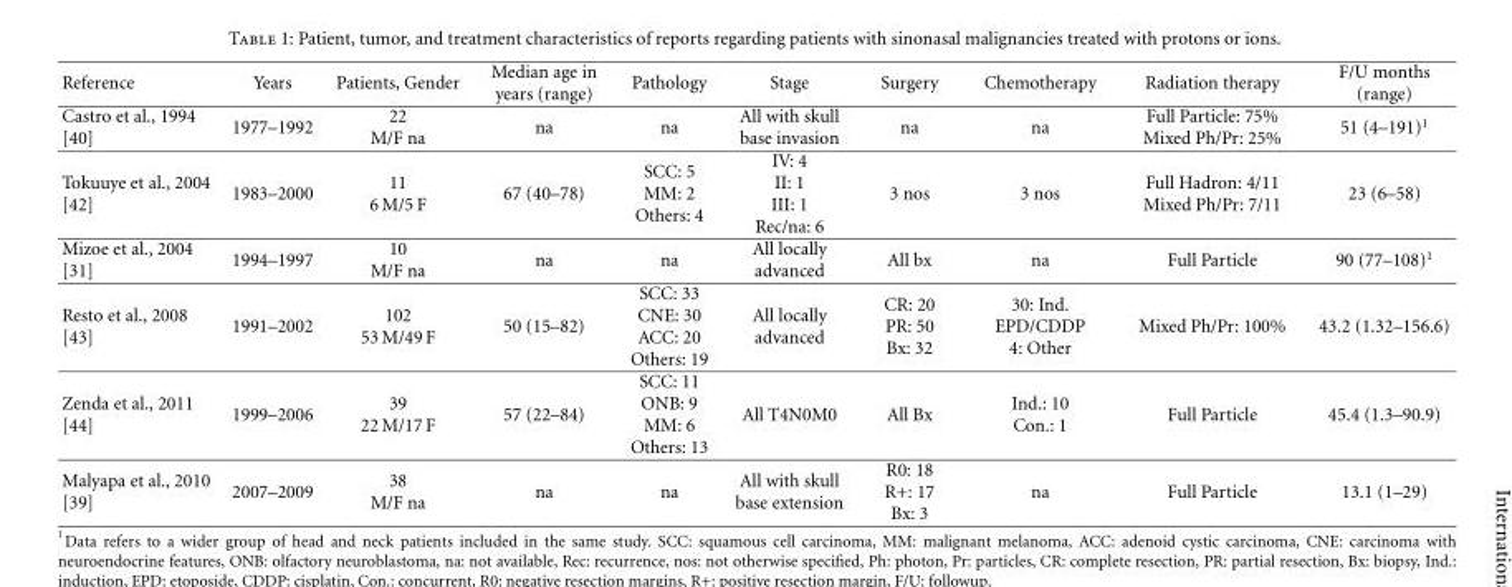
<table><thead><tr><td>Reference</td><td>Years</td><td>Patients, Gender</td><td>Median age in years (range)</td><td>Pathology</td><td>Stage</td><td>Surgery</td><td>Chemotherapy</td><td>Radiation therapy</td><td>F/U months (range)</td></tr></thead><tbody><tr><td>Castro et al., 1994 [40]</td><td>1977–1992</td><td>22 M/F na</td><td>na</td><td>na</td><td>All with skull base invasion</td><td>na</td><td>na</td><td>Full Particle: 75% Mixed Ph/Pr: 25%</td><td>51 (4–191)<sup>1</sup></td></tr><tr><td>Tokuuye et al., 2004 [42]</td><td>1983–2000</td><td>11 6 M/5 F</td><td>67 (40–78)</td><td>SCC: 5 MM: 2 Others: 4</td><td>IV: 4 II: 1 III: 1 Rec/na: 6</td><td>3 nos</td><td>3 nos</td><td>Full Hadron: 4/11 Mixed Ph/Pr: 7/11</td><td>23 (6–58)</td></tr><tr><td>Mizoe et al., 2004 [31]</td><td>1994–1997</td><td>10 M/F na</td><td>na</td><td>na</td><td>All locally advanced</td><td>All bx</td><td>na</td><td>Full Particle</td><td>90 (77–108)<sup>1</sup></td></tr><tr><td>Resto et al., 2008 [43]</td><td>1991–2002</td><td>102 53 M/49 F</td><td>50 (15–82)</td><td>SCC: 33 CNE: 30 ACC: 20 Others: 19</td><td>All locally advanced</td><td>CR: 20 PR: 50 Bx: 32</td><td>30: Ind. EPD/CDDP 4: Other</td><td>Mixed Ph/Pr: 100%</td><td>43.2 (1.32–156.6)</td></tr><tr><td>Zenda et al., 2011 [44]</td><td>1999–2006</td><td>39 22 M/17 F</td><td>57 (22–84)</td><td>SCC: 11 ONB: 9 MM: 6 Others: 13</td><td>All T4N0M0</td><td>All Bx</td><td>Ind.: 10 Con.: 1</td><td>Full Particle</td><td>45.4 (1.3–90.9)</td></tr><tr><td>Malyapa et al., 2010 [39]</td><td>2007–2009</td><td>38 M/F na</td><td>na</td><td>na</td><td>All with skull base extension</td><td>R0: 18 R+: 17 Bx: 3</td><td>na</td><td>Full Particle</td><td>13.1 (1–29)</td></tr></tbody></table>